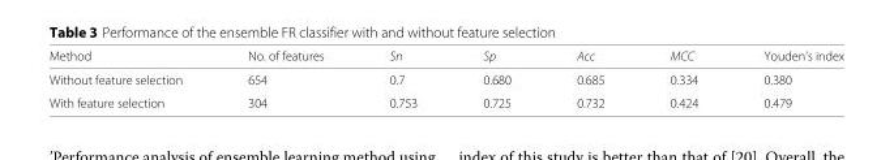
<table><thead><tr><td>Method</td><td>No. of features</td><td>Sn</td><td>Sp</td><td>Acc</td><td>MCC</td><td>Youden’s index</td></tr></thead><tbody><tr><td>Without feature selection</td><td>654</td><td>0.7</td><td>0.680</td><td>0.685</td><td>0.334</td><td>0.380</td></tr><tr><td>With feature selection</td><td>304</td><td>0.753</td><td>0.725</td><td>0.732</td><td>0.424</td><td>0.479</td></tr></tbody></table>